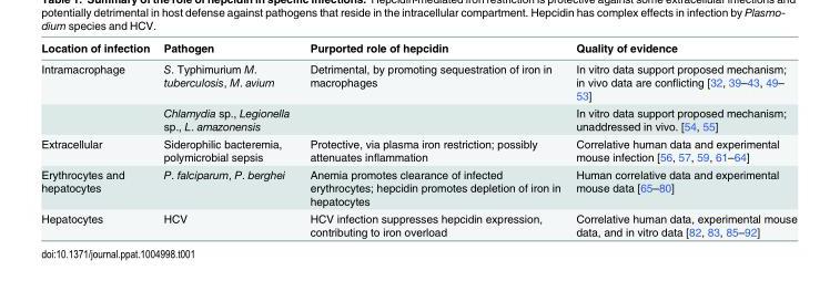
<table><thead><tr><td>Location of infection</td><td>Pathogen</td><td>Purported role of hepcidin</td><td>Quality of evidence</td></tr></thead><tbody><tr><td rowspan="2">Intramacrophage</td><td>S. Typhimurium M. tuberculosis, M. avium</td><td>Detrimental, by promoting sequestration of iron in macrophages</td><td>In vitro data support proposed mechanism; in vivo data are conflicting [32, 39–43, 49– 53]</td></tr><tr><td>Chlamydia sp., Legionella sp., L. amazonensis</td><td></td><td>In vitro data support proposed mechanism; unaddressed in vivo. [54, 55]</td></tr><tr><td>Extracellular</td><td>Siderophilic bacteremia, polymicrobial sepsis</td><td>Protective, via plasma iron restriction; possibly attenuates inflammation</td><td>Correlative human data and experimental mouse infection [56, 57, 59, 61–64]</td></tr><tr><td>Erythrocytes and hepatocytes</td><td>P. falciparum, P. berghei</td><td>Anemia promotes clearance of infected erythrocytes; hepcidin promotes depletion of iron in hepatocytes</td><td>Human correlative data and experimental mouse data [65–80]</td></tr><tr><td>Hepatocytes</td><td>HCV</td><td>HCV infection suppresses hepcidin expression, contributing to iron overload</td><td>Correlative human data, experimental mouse data, and in vitro data [82, 83, 85–92]</td></tr></tbody></table>